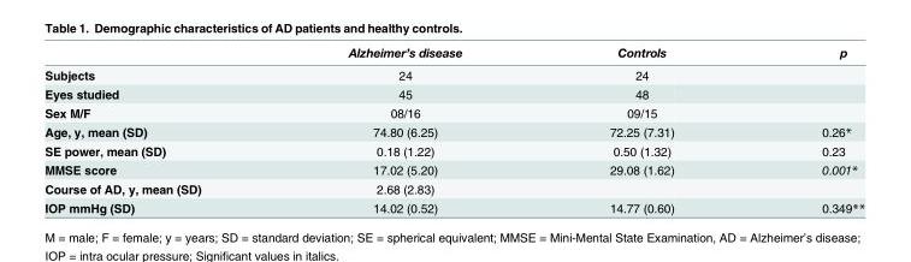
<table><thead><tr><td></td><td>Alzheimer’s disease</td><td>Controls</td><td>p</td></tr></thead><tbody><tr><td>Subjects</td><td>24</td><td>24</td><td></td></tr><tr><td>Eyes studied</td><td>45</td><td>48</td><td></td></tr><tr><td>Sex M/F</td><td>08/16</td><td>09/15</td><td></td></tr><tr><td>Age, y, mean (SD)</td><td>74.80 (6.25)</td><td>72.25 (7.31)</td><td>0.26*</td></tr><tr><td>SE power, mean (SD)</td><td>0.18 (1.22)</td><td>0.50 (1.32)</td><td>0.23</td></tr><tr><td>MMSE score</td><td>17.02 (5.20)</td><td>29.08 (1.62)</td><td>0.001*</td></tr><tr><td>Course of AD, y, mean (SD)</td><td>2.68 (2.83)</td><td></td><td></td></tr><tr><td>IOP mmHg (SD)</td><td>14.02 (0.52)</td><td>14.77 (0.60)</td><td>0.349**</td></tr></tbody></table>